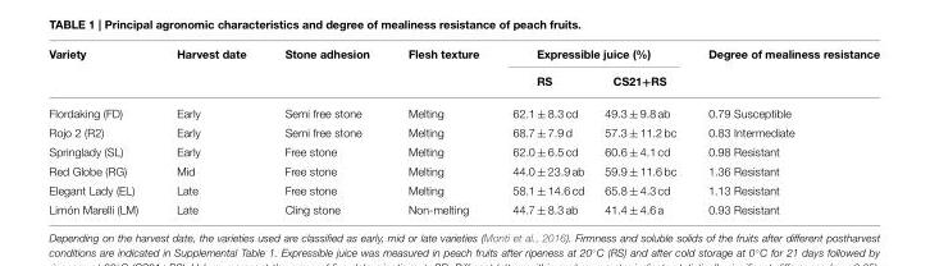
<table><thead><tr><td rowspan="2">Variety</td><td rowspan="2">Harvest date</td><td rowspan="2">Stone adhesion</td><td rowspan="2">Flesh texture</td><td colspan="2">Expressible juice (%)</td><td rowspan="2">Degree of mealiness resistance</td></tr><tr><td>RS</td><td>CS21+RS</td></tr></thead><tbody><tr><td>Flordaking (FD)</td><td>Early</td><td>Semi free stone</td><td>Melting</td><td>62.1 ± 8.3 cd</td><td>49.3 ± 9.8 ab</td><td>0.79 Susceptible</td></tr><tr><td>Rojo 2 (R2)</td><td>Early</td><td>Semi free stone</td><td>Melting</td><td>68.7 ± 7.9 d</td><td>57.3 ± 11.2 bc</td><td>0.83 Intermediate</td></tr><tr><td>Springlady (SL)</td><td>Early</td><td>Free stone</td><td>Melting</td><td>62.0 ± 6.5 cd</td><td>60.6 ± 4.1 cd</td><td>0.98 Resistant</td></tr><tr><td>Red Globe (RG)</td><td>Mid</td><td>Free stone</td><td>Melting</td><td>44.0 ± 23.9 ab</td><td>59.9 ± 11.6 bc</td><td>1.36 Resistant</td></tr><tr><td>Elegant Lady (EL)</td><td>Late</td><td>Free stone</td><td>Melting</td><td>58.1 ± 14.6 cd</td><td>65.8 ± 4.3 cd</td><td>1.13 Resistant</td></tr><tr><td>Limón Marelli (LM)</td><td>Late</td><td>Cling stone</td><td>Non-melting</td><td>44.7 ± 8.3 ab</td><td>41.4 ± 4.6 a</td><td>0.93 Resistant</td></tr></tbody></table>